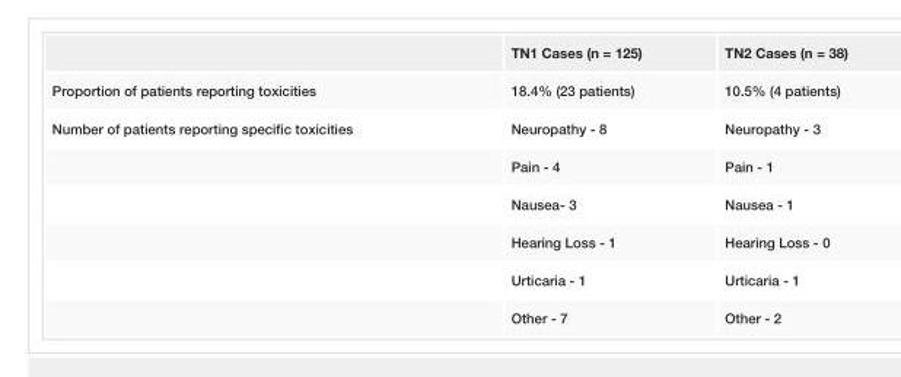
<table><thead><tr><td></td><td>TN1 Cases (n = 125)</td><td>TN2 Cases (n = 38)</td></tr></thead><tbody><tr><td>Proportion of patients reporting toxicities</td><td>18.4% (23 patients)</td><td>10.5% (4 patients)</td></tr><tr><td rowspan="6">Number of patients reporting specific toxicities</td><td>Neuropathy - 8</td><td>Neuropathy - 3</td></tr><tr><td>Pain - 4</td><td>Pain - 1</td></tr><tr><td>Nausea- 3</td><td>Nausea - 1</td></tr><tr><td>Hearing Loss - 1</td><td>Hearing Loss - 0</td></tr><tr><td>Urticaria - 1</td><td>Urticaria - 1</td></tr><tr><td>Other - 7</td><td>Other - 2</td></tr></tbody></table>